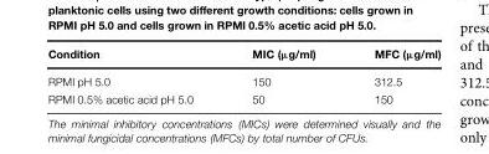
<table><thead><tr><td>Condition</td><td>MIC (µg/ml)</td><td>MFC (µg/ml)</td></tr></thead><tbody><tr><td>RPMI pH 5.0</td><td>150</td><td>312.5</td></tr><tr><td>RPMI 0.5% acetic acid pH 5.0</td><td>50</td><td>150</td></tr></tbody></table>